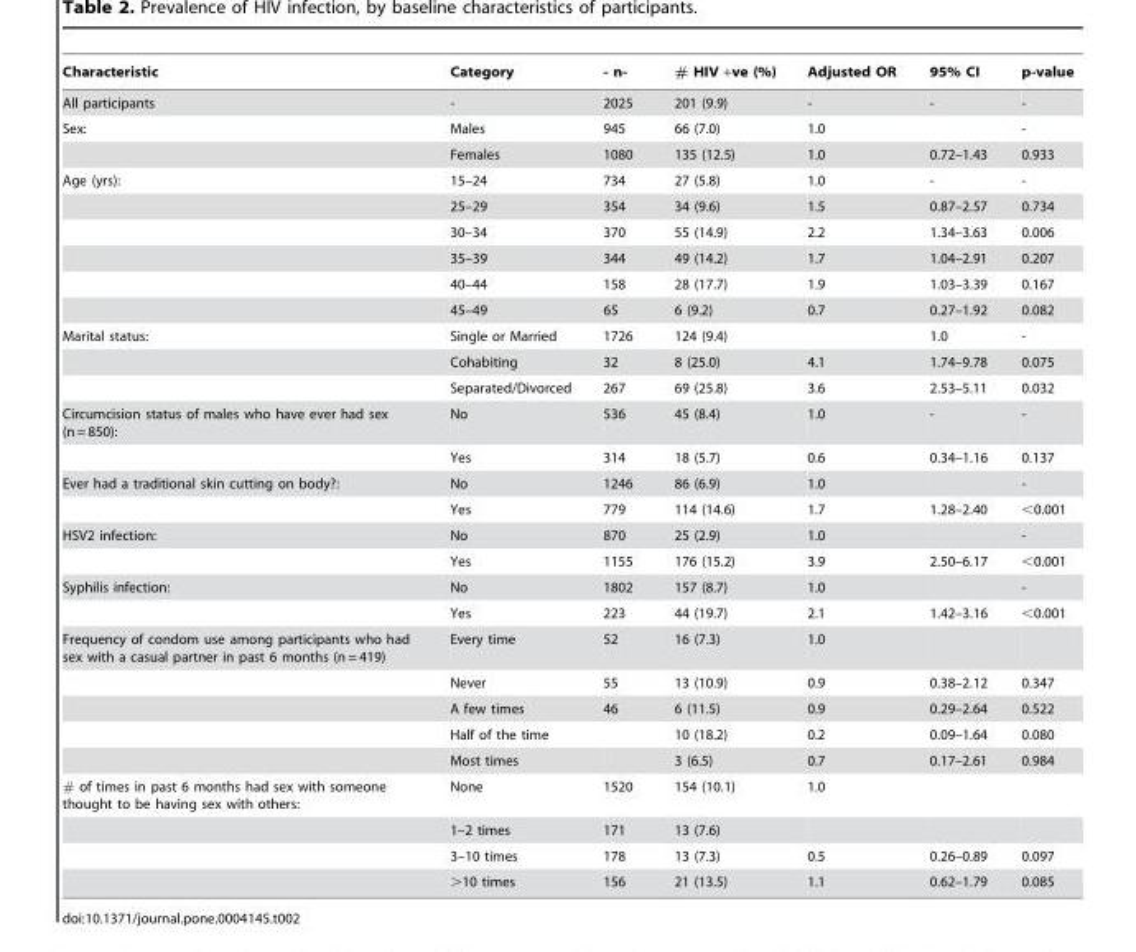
<table><thead><tr><td>Characteristic</td><td>Category</td><td>- n-</td><td># HIV +ve (%)</td><td>Adjusted OR</td><td>95% CI</td><td>p-value</td></tr></thead><tbody><tr><td>All participants</td><td>-</td><td>2025</td><td>201 (9.9)</td><td>-</td><td>-</td><td>-</td></tr><tr><td rowspan="2">Sex:</td><td>Males</td><td>945</td><td>66 (7.0)</td><td>1.0</td><td></td><td>-</td></tr><tr><td>Females</td><td>1080</td><td>135 (12.5)</td><td>1.0</td><td>0.72–1.43</td><td>0.933</td></tr><tr><td rowspan="6">Age (yrs):</td><td>15–24</td><td>734</td><td>27 (5.8)</td><td>1.0</td><td>-</td><td>-</td></tr><tr><td>25–29</td><td>354</td><td>34 (9.6)</td><td>1.5</td><td>0.87–2.57</td><td>0.734</td></tr><tr><td>30–34</td><td>370</td><td>55 (14.9)</td><td>2.2</td><td>1.34–3.63</td><td>0.006</td></tr><tr><td>35–39</td><td>344</td><td>49 (14.2)</td><td>1.7</td><td>1.04–2.91</td><td>0.207</td></tr><tr><td>40–44</td><td>158</td><td>28 (17.7)</td><td>1.9</td><td>1.03–3.39</td><td>0.167</td></tr><tr><td>45–49</td><td>65</td><td>6 (9.2)</td><td>0.7</td><td>0.27–1.92</td><td>0.082</td></tr><tr><td rowspan="3">Marital status:</td><td>Single or Married</td><td>1726</td><td>124 (9.4)</td><td></td><td>1.0</td><td>-</td></tr><tr><td>Cohabiting</td><td>32</td><td>8 (25.0)</td><td>4.1</td><td>1.74–9.78</td><td>0.075</td></tr><tr><td>Separated/Divorced</td><td>267</td><td>69 (25.8)</td><td>3.6</td><td>2.53–5.11</td><td>0.032</td></tr><tr><td rowspan="2">Circumcision status of males who have ever had sex (n = 850):</td><td>No</td><td>536</td><td>45 (8.4)</td><td>1.0</td><td>-</td><td>-</td></tr><tr><td>Yes</td><td>314</td><td>18 (5.7)</td><td>0.6</td><td>0.34–1.16</td><td>0.137</td></tr><tr><td rowspan="2">Ever had a traditional skin cutting on body?:</td><td>No</td><td>1246</td><td>86 (6.9)</td><td>1.0</td><td></td><td>-</td></tr><tr><td>Yes</td><td>779</td><td>114 (14.6)</td><td>1.7</td><td>1.28–2.40</td><td>&lt;0.001</td></tr><tr><td rowspan="2">HSV2 infection:</td><td>No</td><td>870</td><td>25 (2.9)</td><td>1.0</td><td></td><td>-</td></tr><tr><td>Yes</td><td>1155</td><td>176 (15.2)</td><td>3.9</td><td>2.50–6.17</td><td>&lt;0.001</td></tr><tr><td rowspan="2">Syphilis infection:</td><td>No</td><td>1802</td><td>157 (8.7)</td><td>1.0</td><td></td><td>-</td></tr><tr><td>Yes</td><td>223</td><td>44 (19.7)</td><td>2.1</td><td>1.42–3.16</td><td>&lt;0.001</td></tr><tr><td rowspan="5">Frequency of condom use among participants who had sex with a casual partner in past 6 months (n = 419)</td><td>Every time</td><td>52</td><td>16 (7.3)</td><td>1.0</td><td></td><td></td></tr><tr><td>Never</td><td>55</td><td>13 (10.9)</td><td>0.9</td><td>0.38–2.12</td><td>0.347</td></tr><tr><td>A few times</td><td>46</td><td>6 (11.5)</td><td>0.9</td><td>0.29–2.64</td><td>0.522</td></tr><tr><td>Half of the time</td><td></td><td>10 (18.2)</td><td>0.2</td><td>0.09–1.64</td><td>0.080</td></tr><tr><td>Most times</td><td></td><td>3 (6.5)</td><td>0.7</td><td>0.17–2.61</td><td>0.984</td></tr><tr><td rowspan="4"># of times in past 6 months had sex with someone thought to be having sex with others:</td><td>None</td><td>1520</td><td>154 (10.1)</td><td>1.0</td><td></td><td></td></tr><tr><td>1–2 times</td><td>171</td><td>13 (7.6)</td><td></td><td></td><td></td></tr><tr><td>3–10 times</td><td>178</td><td>13 (7.3)</td><td>0.5</td><td>0.26–0.89</td><td>0.097</td></tr><tr><td>&gt;10 times</td><td>156</td><td>21 (13.5)</td><td>1.1</td><td>0.62–1.79</td><td>0.085</td></tr></tbody></table>